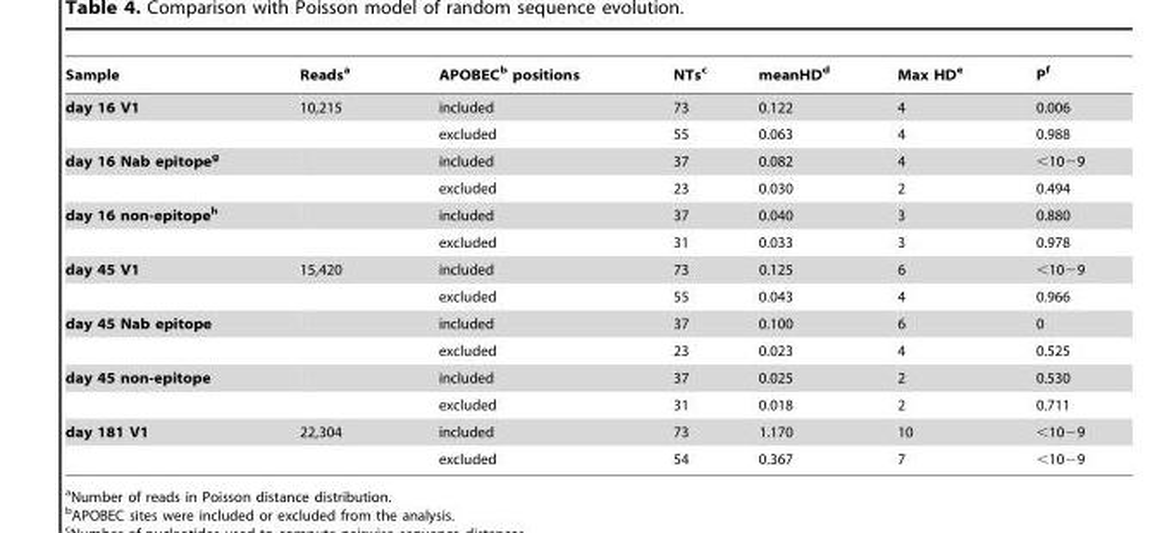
<table><thead><tr><td>Sample</td><td>Reads<sup>a</sup></td><td>APOBEC<sup>b</sup> positions</td><td>NTs<sup>c</sup></td><td>meanHD<sup>d</sup></td><td>Max HD<sup>e</sup></td><td>P<sup>f</sup></td></tr></thead><tbody><tr><td rowspan="2">day 16 V1</td><td>10,215</td><td>included</td><td>73</td><td>0.122</td><td>4</td><td>0.006</td></tr><tr><td></td><td>excluded</td><td>55</td><td>0.063</td><td>4</td><td>0.988</td></tr><tr><td rowspan="2">day 16 Nab epitopeg</td><td></td><td>included</td><td>37</td><td>0.082</td><td>4</td><td>&lt;10−9</td></tr><tr><td></td><td>excluded</td><td>23</td><td>0.030</td><td>2</td><td>0.494</td></tr><tr><td rowspan="2">day 16 non-epitopeh</td><td></td><td>included</td><td>37</td><td>0.040</td><td>3</td><td>0.880</td></tr><tr><td></td><td>excluded</td><td>31</td><td>0.033</td><td>3</td><td>0.978</td></tr><tr><td rowspan="2">day 45 V1</td><td>15,420</td><td>included</td><td>73</td><td>0.125</td><td>6</td><td>&lt;10−9</td></tr><tr><td></td><td>excluded</td><td>55</td><td>0.043</td><td>4</td><td>0.966</td></tr><tr><td rowspan="2">day 45 Nab epitope</td><td></td><td>included</td><td>37</td><td>0.100</td><td>6</td><td>0</td></tr><tr><td></td><td>excluded</td><td>23</td><td>0.023</td><td>4</td><td>0.525</td></tr><tr><td rowspan="2">day 45 non-epitope</td><td></td><td>included</td><td>37</td><td>0.025</td><td>2</td><td>0.530</td></tr><tr><td></td><td>excluded</td><td>31</td><td>0.018</td><td>2</td><td>0.711</td></tr><tr><td rowspan="2">day 181 V1</td><td>22,304</td><td>included</td><td>73</td><td>1.170</td><td>10</td><td>&lt;10−9</td></tr><tr><td></td><td>excluded</td><td>54</td><td>0.367</td><td>7</td><td>&lt;10−9</td></tr></tbody></table>